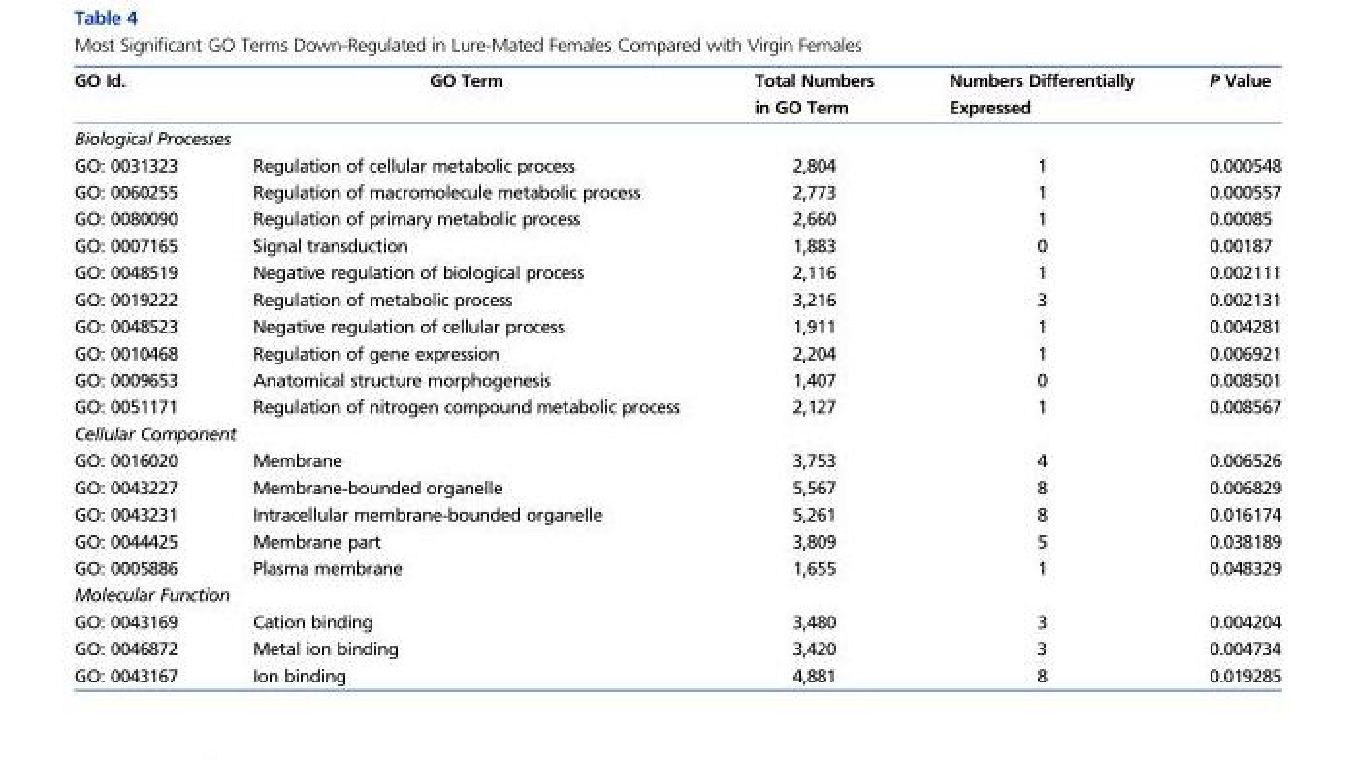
<table><thead><tr><td>GO Id.</td><td>GO Term</td><td>Total Numbers in GO Term</td><td>Numbers Differentially Expressed</td><td>P Value</td></tr></thead><tbody><tr><td colspan="5">Biological Processes</td></tr><tr><td>GO: 0031323</td><td>Regulation of cellular metabolic process</td><td>2,804</td><td>1</td><td>0.000548</td></tr><tr><td>GO: 0060255</td><td>Regulation of macromolecule metabolic process</td><td>2,773</td><td>1</td><td>0.000557</td></tr><tr><td>GO: 0080090</td><td>Regulation of primary metabolic process</td><td>2,660</td><td>1</td><td>0.00085</td></tr><tr><td>GO: 0007165</td><td>Signal transduction</td><td>1,883</td><td>0</td><td>0.00187</td></tr><tr><td>GO: 0048519</td><td>Negative regulation of biological process</td><td>2,116</td><td>1</td><td>0.002111</td></tr><tr><td>GO: 0019222</td><td>Regulation of metabolic process</td><td>3,216</td><td>3</td><td>0.002131</td></tr><tr><td>GO: 0048523</td><td>Negative regulation of cellular process</td><td>1,911</td><td>1</td><td>0.004281</td></tr><tr><td>GO: 0010468</td><td>Regulation of gene expression</td><td>2,204</td><td>1</td><td>0.006921</td></tr><tr><td>GO: 0009653</td><td>Anatomical structure morphogenesis</td><td>1,407</td><td>0</td><td>0.008501</td></tr><tr><td>GO: 0051171</td><td>Regulation of nitrogen compound metabolic process</td><td>2,127</td><td>1</td><td>0.008567</td></tr><tr><td colspan="5">Cellular Component</td></tr><tr><td>GO: 0016020</td><td>Membrane</td><td>3,753</td><td>4</td><td>0.006526</td></tr><tr><td>GO: 0043227</td><td>Membrane-bounded organelle</td><td>5,567</td><td>8</td><td>0.006829</td></tr><tr><td>GO: 0043231</td><td>Intracellular membrane-bounded organelle</td><td>5,261</td><td>8</td><td>0.016174</td></tr><tr><td>GO: 0044425</td><td>Membrane part</td><td>3,809</td><td>5</td><td>0.038189</td></tr><tr><td>GO: 0005886</td><td>Plasma membrane</td><td>1,655</td><td>1</td><td>0.048329</td></tr><tr><td colspan="5">Molecular Function</td></tr><tr><td>GO: 0043169</td><td>Cation binding</td><td>3,480</td><td>3</td><td>0.004204</td></tr><tr><td>GO: 0046872</td><td>Metal ion binding</td><td>3,420</td><td>3</td><td>0.004734</td></tr><tr><td>GO: 0043167</td><td>Ion binding</td><td>4,881</td><td>8</td><td>0.019285</td></tr></tbody></table>